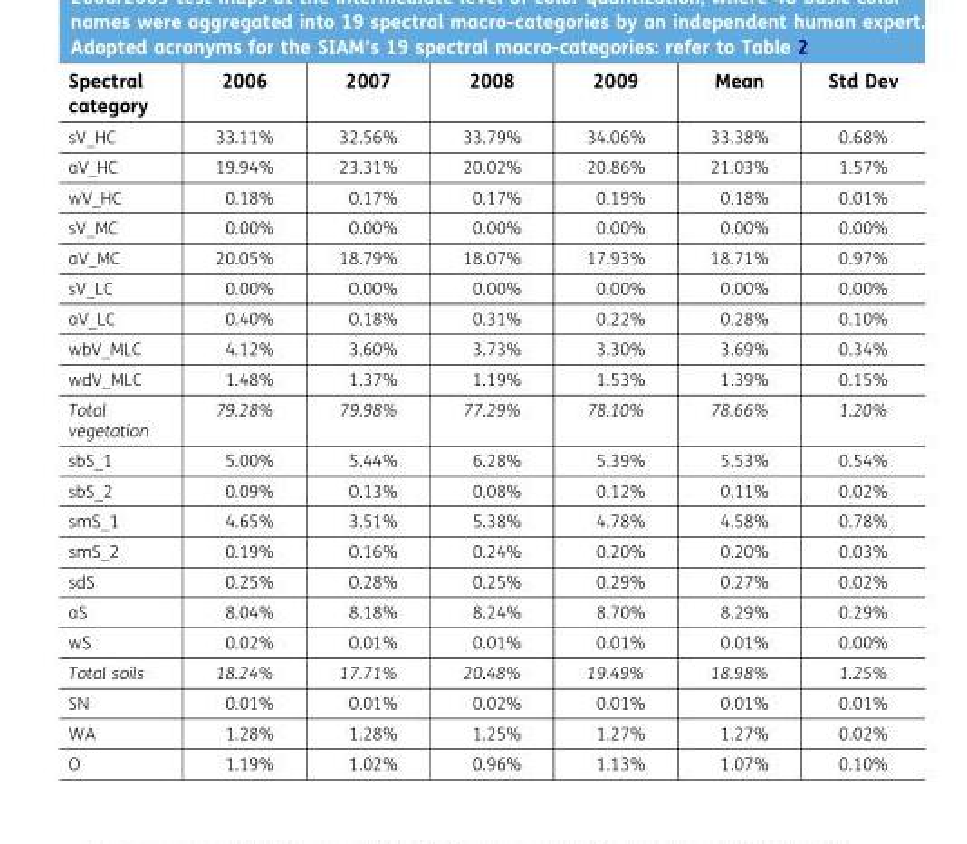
<table><thead><tr><td>Spectral category</td><td>2006</td><td>2007</td><td>2008</td><td>2009</td><td>Mean</td><td>Std Dev</td></tr></thead><tbody><tr><td>sV_HC</td><td>33.11%</td><td>32.56%</td><td>33.79%</td><td>34.06%</td><td>33.38%</td><td>0.68%</td></tr><tr><td>aV_HC</td><td>19.94%</td><td>23.31%</td><td>20.02%</td><td>20.86%</td><td>21.03%</td><td>1.57%</td></tr><tr><td>wV_HC</td><td>0.18%</td><td>0.17%</td><td>0.17%</td><td>0.19%</td><td>0.18%</td><td>0.01%</td></tr><tr><td>sV_MC</td><td>0.00%</td><td>0.00%</td><td>0.00%</td><td>0.00%</td><td>0.00%</td><td>0.00%</td></tr><tr><td>aV_MC</td><td>20.05%</td><td>18.79%</td><td>18.07%</td><td>17.93%</td><td>18.71%</td><td>0.97%</td></tr><tr><td>sV_LC</td><td>0.00%</td><td>0.00%</td><td>0.00%</td><td>0.00%</td><td>0.00%</td><td>0.00%</td></tr><tr><td>aV_LC</td><td>0.40%</td><td>0.18%</td><td>0.31%</td><td>0.22%</td><td>0.28%</td><td>0.10%</td></tr><tr><td>wbV_MLC</td><td>4.12%</td><td>3.60%</td><td>3.73%</td><td>3.30%</td><td>3.69%</td><td>0.34%</td></tr><tr><td>wdV_MLC</td><td>1.48%</td><td>1.37%</td><td>1.19%</td><td>1.53%</td><td>1.39%</td><td>0.15%</td></tr><tr><td>Total vegetation</td><td>79.28%</td><td>79.98%</td><td>77.29%</td><td>78.10%</td><td>78.66%</td><td>1.20%</td></tr><tr><td>sbS_1</td><td>5.00%</td><td>5.44%</td><td>6.28%</td><td>5.39%</td><td>5.53%</td><td>0.54%</td></tr><tr><td>sbS_2</td><td>0.09%</td><td>0.13%</td><td>0.08%</td><td>0.12%</td><td>0.11%</td><td>0.02%</td></tr><tr><td>smS_1</td><td>4.65%</td><td>3.51%</td><td>5.38%</td><td>4.78%</td><td>4.58%</td><td>0.78%</td></tr><tr><td>smS_2</td><td>0.19%</td><td>0.16%</td><td>0.24%</td><td>0.20%</td><td>0.20%</td><td>0.03%</td></tr><tr><td>sdS</td><td>0.25%</td><td>0.28%</td><td>0.25%</td><td>0.29%</td><td>0.27%</td><td>0.02%</td></tr><tr><td>aS</td><td>8.04%</td><td>8.18%</td><td>8.24%</td><td>8.70%</td><td>8.29%</td><td>0.29%</td></tr><tr><td>wS</td><td>0.02%</td><td>0.01%</td><td>0.01%</td><td>0.01%</td><td>0.01%</td><td>0.00%</td></tr><tr><td>Total soils</td><td>18.24%</td><td>17.71%</td><td>20.48%</td><td>19.49%</td><td>18.98%</td><td>1.25%</td></tr><tr><td>SN</td><td>0.01%</td><td>0.01%</td><td>0.02%</td><td>0.01%</td><td>0.01%</td><td>0.01%</td></tr><tr><td>WA</td><td>1.28%</td><td>1.28%</td><td>1.25%</td><td>1.27%</td><td>1.27%</td><td>0.02%</td></tr><tr><td>O</td><td>1.19%</td><td>1.02%</td><td>0.96%</td><td>1.13%</td><td>1.07%</td><td>0.10%</td></tr></tbody></table>